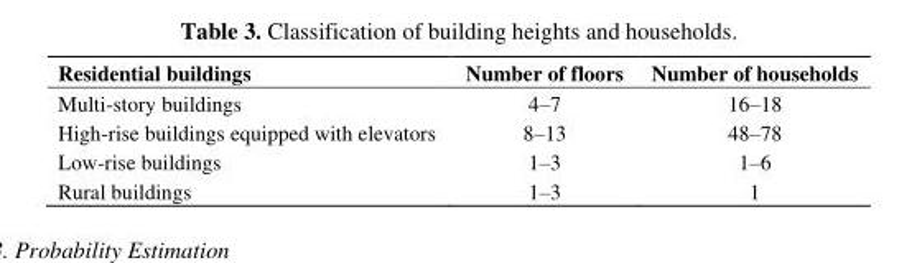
<table><thead><tr><td>Residential buildings</td><td>Number of floors</td><td>Number of households</td></tr></thead><tbody><tr><td>Multi-story buildings</td><td>4–7</td><td>16–18</td></tr><tr><td>High-rise buildings equipped with elevators</td><td>8–13</td><td>48–78</td></tr><tr><td>Low-rise buildings</td><td>1–3</td><td>1–6</td></tr><tr><td>Rural buildings</td><td>1–3</td><td>1</td></tr></tbody></table>